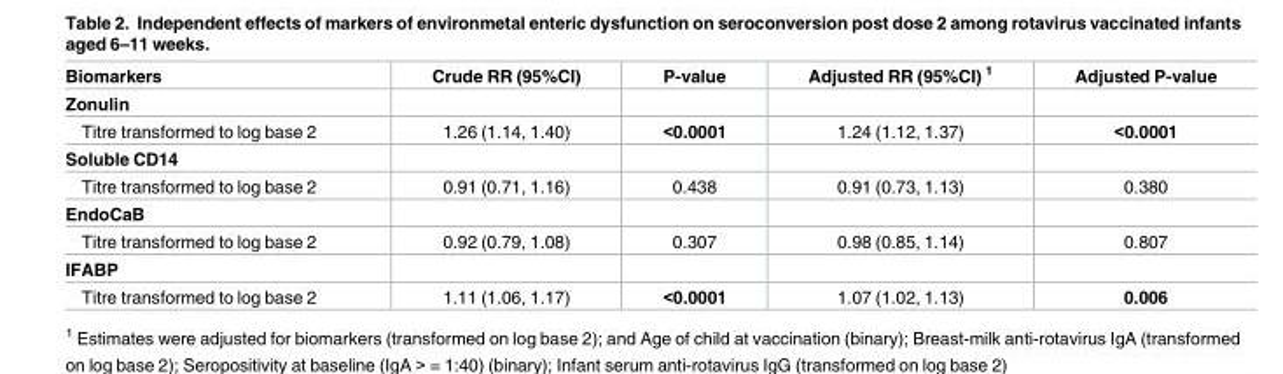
<table><thead><tr><td>Biomarkers</td><td>Crude RR (95%CI)</td><td>P-value</td><td>Adjusted RR (95%CI) <sup>1</sup></td><td>Adjusted P-value</td></tr></thead><tbody><tr><td colspan="5">Zonulin</td></tr><tr><td>Titre transformed to log base 2</td><td>1.26 (1.14, 1.40)</td><td>&lt;0.0001</td><td>1.24 (1.12, 1.37)</td><td>&lt;0.0001</td></tr><tr><td colspan="5">Soluble CD14</td></tr><tr><td>Titre transformed to log base 2</td><td>0.91 (0.71, 1.16)</td><td>0.438</td><td>0.91 (0.73, 1.13)</td><td>0.380</td></tr><tr><td colspan="5">EndoCaB</td></tr><tr><td>Titre transformed to log base 2</td><td>0.92 (0.79, 1.08)</td><td>0.307</td><td>0.98 (0.85, 1.14)</td><td>0.807</td></tr><tr><td colspan="5">IFABP</td></tr><tr><td>Titre transformed to log base 2</td><td>1.11 (1.06, 1.17)</td><td>&lt;0.0001</td><td>1.07 (1.02, 1.13)</td><td>0.006</td></tr></tbody></table>